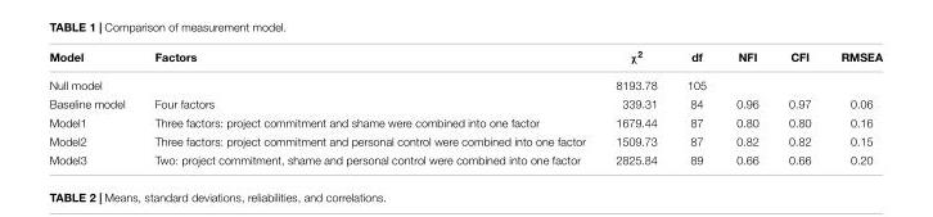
<table><thead><tr><td>Model</td><td>Factors</td><td>χ<sup>2</sup></td><td>df</td><td>NFI</td><td>CFI</td><td>RMSEA</td></tr></thead><tbody><tr><td>Null model</td><td></td><td>8193.78</td><td>105</td><td></td><td></td><td></td></tr><tr><td>Baseline model</td><td>Four factors</td><td>339.31</td><td>84</td><td>0.96</td><td>0.97</td><td>0.06</td></tr><tr><td>Model1</td><td>Three factors: project commitment and shame were combined into one factor</td><td>1679.44</td><td>87</td><td>0.80</td><td>0.80</td><td>0.16</td></tr><tr><td>Model2</td><td>Three factors: project commitment and personal control were combined into one factor</td><td>1509.73</td><td>87</td><td>0.82</td><td>0.82</td><td>0.15</td></tr><tr><td>Model3</td><td>Two: project commitment, shame and personal control were combined into one factor</td><td>2825.84</td><td>89</td><td>0.66</td><td>0.66</td><td>0.20</td></tr></tbody></table>